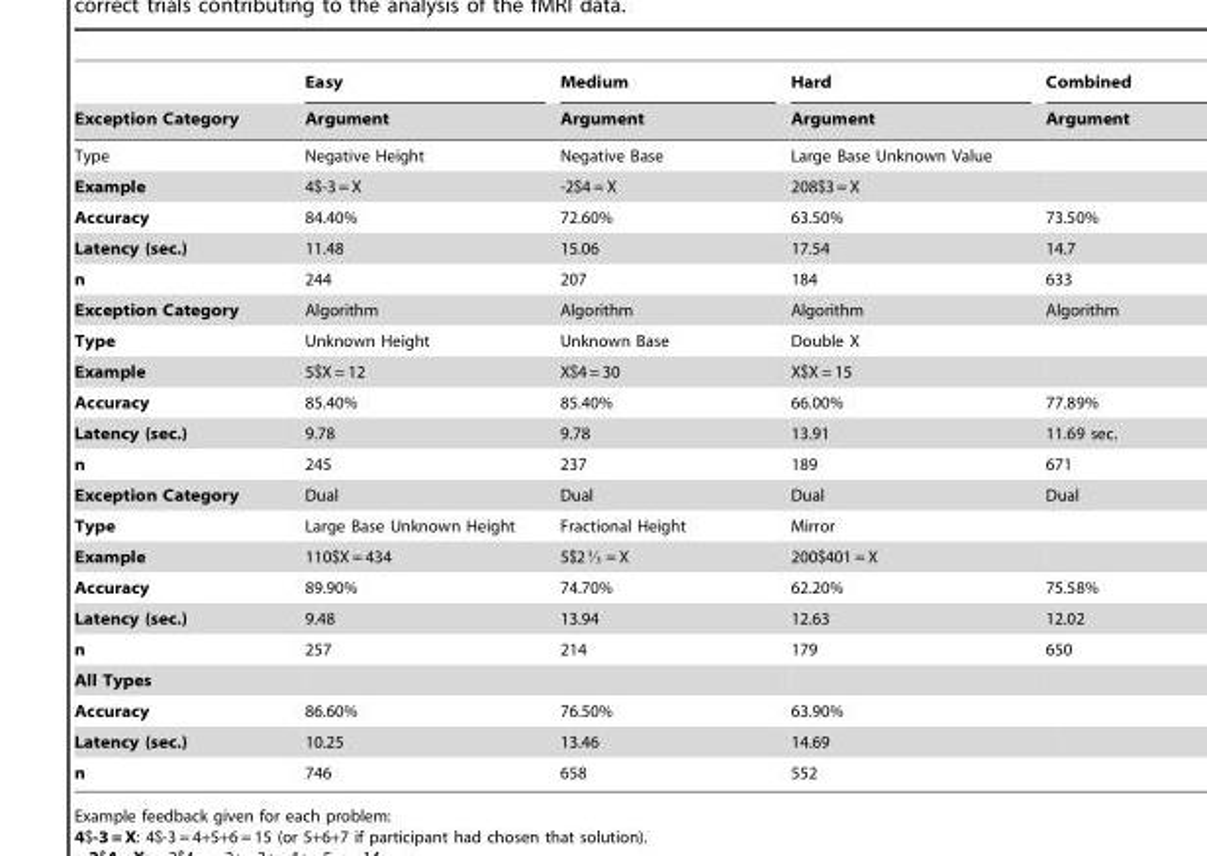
<table><thead><tr><td rowspan="2">Exception Category</td><td rowspan="2">Easy Argument</td><td rowspan="2">Medium Argument</td><td rowspan="2">Hard Argument</td><td rowspan="2">Combined Argument</td></tr><tr></tr></thead><tbody><tr><td>Type</td><td>Negative Height</td><td>Negative Base</td><td>Large Base Unknown Value</td><td></td></tr><tr><td>Example</td><td>4$-3 = X</td><td>-2$4 = X</td><td>208$3 = X</td><td></td></tr><tr><td>Accuracy</td><td>84.40%</td><td>72.60%</td><td>63.50%</td><td>73.50%</td></tr><tr><td>Latency (sec.)</td><td>11.48</td><td>15.06</td><td>17.54</td><td>14.7</td></tr><tr><td>n</td><td>244</td><td>207</td><td>184</td><td>633</td></tr><tr><td>Exception Category</td><td>Algorithm</td><td>Algorithm</td><td>Algorithm</td><td>Algorithm</td></tr><tr><td>Type</td><td>Unknown Height</td><td>Unknown Base</td><td>Double X</td><td></td></tr><tr><td>Example</td><td>5$X = 12</td><td>X$4 = 30</td><td>X$X = 15</td><td></td></tr><tr><td>Accuracy</td><td>85.40%</td><td>85.40%</td><td>66.00%</td><td>77.89%</td></tr><tr><td>Latency (sec.)</td><td>9.78</td><td>9.78</td><td>13.91</td><td>11.69 sec.</td></tr><tr><td>n</td><td>245</td><td>237</td><td>189</td><td>671</td></tr><tr><td>Exception Category</td><td>Dual</td><td>Dual</td><td>Dual</td><td>Dual</td></tr><tr><td>Type</td><td>Large Base Unknown Height</td><td>Fractional Height</td><td>Mirror</td><td></td></tr><tr><td>Example</td><td>110$X = 434</td><td>5$2M = X</td><td>200$401 = X</td><td></td></tr><tr><td>Accuracy</td><td>89.90%</td><td>74.70%</td><td>62.20%</td><td>75.58%</td></tr><tr><td>Latency (sec.)</td><td>9.48</td><td>13.94</td><td>12.63</td><td>12.02</td></tr><tr><td>n</td><td>257</td><td>214</td><td>179</td><td>650</td></tr><tr><td colspan="5">All Types</td></tr><tr><td>Accuracy</td><td>86.60%</td><td>76.50%</td><td>63.90%</td><td></td></tr><tr><td>Latency (sec.)</td><td>10.25</td><td>13.46</td><td>14.69</td><td></td></tr><tr><td>n</td><td>746</td><td>658</td><td>552</td><td></td></tr></tbody></table>